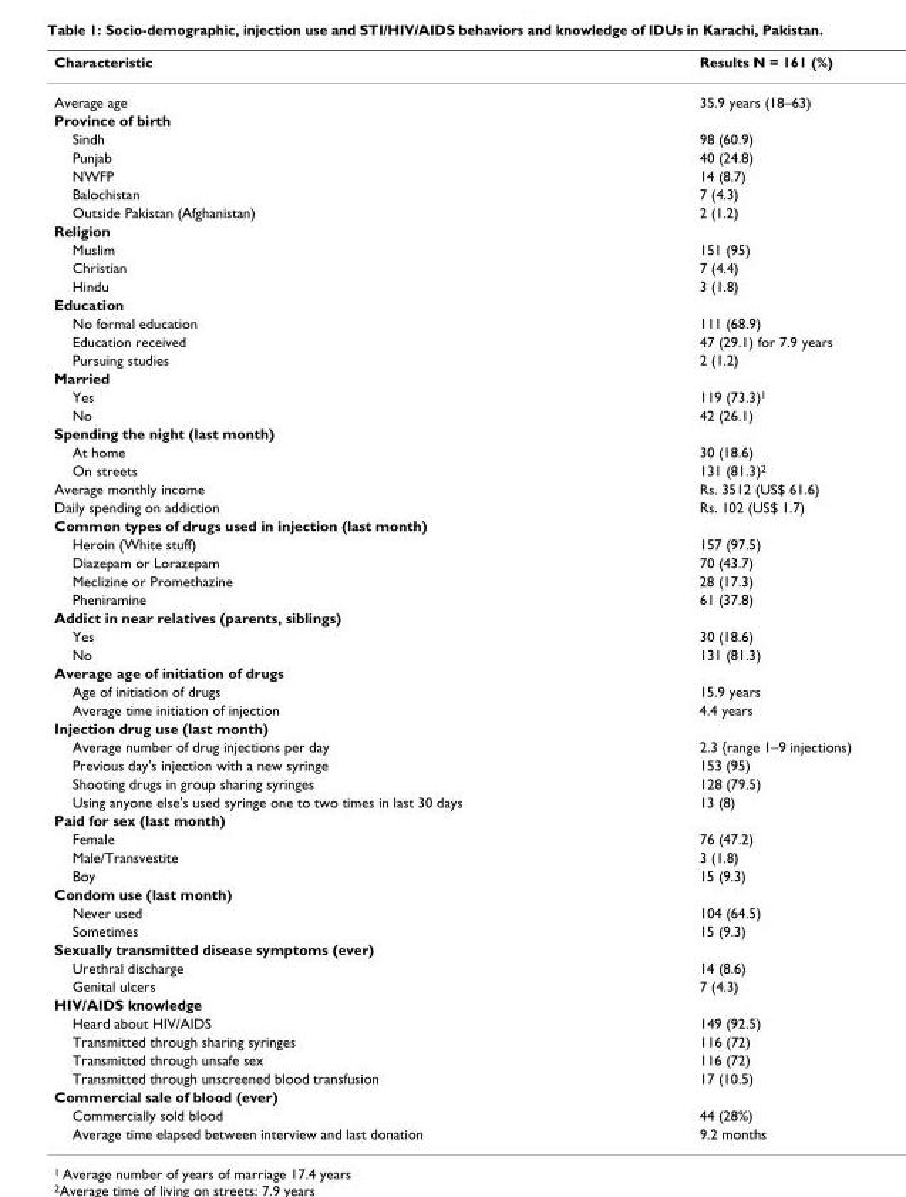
<table><thead><tr><td>Characteristic</td><td>Results N = 161 (%)</td></tr></thead><tbody><tr><td>Average age</td><td>35.9 years (18–63)</td></tr><tr><td colspan="2">Province of birth</td></tr><tr><td>Sindh</td><td>98 (60.9)</td></tr><tr><td>Punjab</td><td>40 (24.8)</td></tr><tr><td>NWFP</td><td>14 (8.7)</td></tr><tr><td>Balochistan</td><td>7 (4.3)</td></tr><tr><td>Outside Pakistan (Afghanistan)</td><td>2 (1.2)</td></tr><tr><td colspan="2">Religion</td></tr><tr><td>Muslim</td><td>151 (95)</td></tr><tr><td>Christian</td><td>7 (4.4)</td></tr><tr><td>Hindu</td><td>3 (1.8)</td></tr><tr><td colspan="2">Education</td></tr><tr><td>No formal education</td><td>111 (68.9)</td></tr><tr><td>Education received</td><td>47 (29.1) for 7.9 years</td></tr><tr><td>Pursuing studies</td><td>2 (1.2)</td></tr><tr><td colspan="2">Married</td></tr><tr><td>Yes</td><td>119 (73.3)<sup>1</sup></td></tr><tr><td>No</td><td>42 (26.1)</td></tr><tr><td colspan="2">Spending the night (last month)</td></tr><tr><td>At home</td><td>30 (18.6)</td></tr><tr><td>On streets</td><td>131 (81.3)<sup>2</sup></td></tr><tr><td>Average monthly income</td><td>Rs. 3512 (US$ 61.6)</td></tr><tr><td>Daily spending on addiction</td><td>Rs. 102 (US$ 1.7)</td></tr><tr><td colspan="2">Common types of drugs used in injection (last month)</td></tr><tr><td>Heroin (White stuff)</td><td>157 (97.5)</td></tr><tr><td>Diazepam or Lorazepam</td><td>70 (43.7)</td></tr><tr><td>Meclizine or Promethazine</td><td>28 (17.3)</td></tr><tr><td>Pheniramine</td><td>61 (37.8)</td></tr><tr><td colspan="2">Addict in near relatives (parents, siblings)</td></tr><tr><td>Yes</td><td>30 (18.6)</td></tr><tr><td>No</td><td>131 (81.3)</td></tr><tr><td colspan="2">Average age of initiation of drugs</td></tr><tr><td>Age of initiation of drugs</td><td>15.9 years</td></tr><tr><td>Average time initiation of injection</td><td>4.4 years</td></tr><tr><td colspan="2">Injection drug use (last month)</td></tr><tr><td>Average number of drug injections per day</td><td>2.3 {range 1–9 injections)</td></tr><tr><td>Previous day&#x27;s injection with a new syringe</td><td>153 (95)</td></tr><tr><td>Shooting drugs in group sharing syringes</td><td>128 (79.5)</td></tr><tr><td>Using anyone else&#x27;s used syringe one to two times in last 30 days</td><td>13 (8)</td></tr><tr><td colspan="2">Paid for sex (last month)</td></tr><tr><td>Female</td><td>76 (47.2)</td></tr><tr><td>Male/Transvestite</td><td>3 (1.8)</td></tr><tr><td>Boy</td><td>15 (9.3)</td></tr><tr><td colspan="2">Condom use (last month)</td></tr><tr><td>Never used</td><td>104 (64.5)</td></tr><tr><td>Sometimes</td><td>15 (9.3)</td></tr><tr><td colspan="2">Sexually transmitted disease symptoms (ever)</td></tr><tr><td>Urethral discharge</td><td>14 (8.6)</td></tr><tr><td>Genital ulcers</td><td>7 (4.3)</td></tr><tr><td colspan="2">HIV/AIDS knowledge</td></tr><tr><td>Heard about HIV/AIDS</td><td>149 (92.5)</td></tr><tr><td>Transmitted through sharing syringes</td><td>116 (72)</td></tr><tr><td>Transmitted through unsafe sex</td><td>116 (72)</td></tr><tr><td>Transmitted through unscreened blood transfusion</td><td>17 (10.5)</td></tr><tr><td colspan="2">Commercial sale of blood (ever)</td></tr><tr><td>Commercially sold blood</td><td>44 (28%)</td></tr><tr><td>Average time elapsed between interview and last donation</td><td>9.2 months</td></tr></tbody></table>